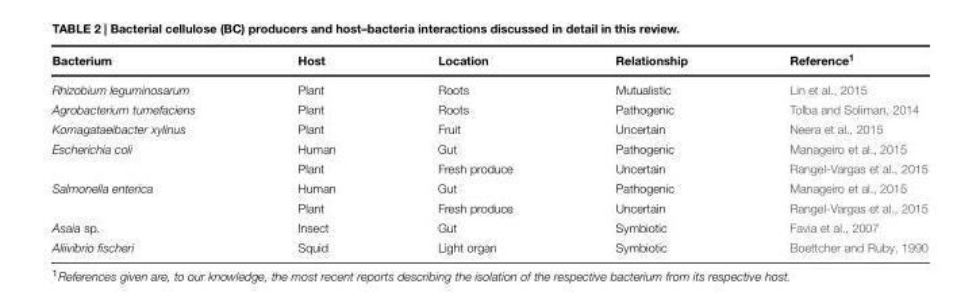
<table><thead><tr><td>Bacterium</td><td>Host</td><td>Location</td><td>Relationship</td><td>Reference<sup>1</sup></td></tr></thead><tbody><tr><td>Rhizobium leguminosarum</td><td>Plant</td><td>Roots</td><td>Mutualistic</td><td>Lin et al., 2015</td></tr><tr><td>Agrobacterium tumefaciens</td><td>Plant</td><td>Roots</td><td>Pathogenic</td><td>Tolba and Soliman, 2014</td></tr><tr><td>Komagataeibacter xylinus</td><td>Plant</td><td>Fruit</td><td>Uncertain</td><td>Neera et al., 2015</td></tr><tr><td rowspan="2">Escherichia coli</td><td>Human</td><td>Gut</td><td>Pathogenic</td><td>Manageiro et al., 2015</td></tr><tr><td>Plant</td><td>Fresh produce</td><td>Uncertain</td><td>Rangel-Vargas et al., 2015</td></tr><tr><td rowspan="2">Salmonella enterica</td><td>Human</td><td>Gut</td><td>Pathogenic</td><td>Manageiro et al., 2015</td></tr><tr><td>Plant</td><td>Fresh produce</td><td>Uncertain</td><td>Rangel-Vargas et al., 2015</td></tr><tr><td>Asaia sp.</td><td>Insect</td><td>Gut</td><td>Symbiotic</td><td>Favia et al., 2007</td></tr><tr><td>Aliivibrio fischeri</td><td>Squid</td><td>Light organ</td><td>Symbiotic</td><td>Boettcher and Ruby, 1990</td></tr></tbody></table>